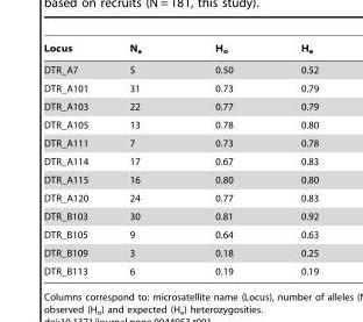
<table><thead><tr><td>Locus</td><td>N<sub>a</sub></td><td>H<sub>o</sub></td><td>H<sub>e</sub></td></tr></thead><tbody><tr><td>DTR_A7</td><td>5</td><td>0.50</td><td>0.52</td></tr><tr><td>DTR_A101</td><td>31</td><td>0.73</td><td>0.79</td></tr><tr><td>DTR_A103</td><td>22</td><td>0.77</td><td>0.79</td></tr><tr><td>DTR_A105</td><td>13</td><td>0.78</td><td>0.80</td></tr><tr><td>DTR_A111</td><td>7</td><td>0.73</td><td>0.78</td></tr><tr><td>DTR_A114</td><td>17</td><td>0.67</td><td>0.83</td></tr><tr><td>DTR_A115</td><td>16</td><td>0.80</td><td>0.80</td></tr><tr><td>DTR_A120</td><td>24</td><td>0.77</td><td>0.83</td></tr><tr><td>DTR_B103</td><td>30</td><td>0.81</td><td>0.92</td></tr><tr><td>DTR_B105</td><td>9</td><td>0.64</td><td>0.63</td></tr><tr><td>DTR_B109</td><td>3</td><td>0.18</td><td>0.25</td></tr><tr><td>DTR_B113</td><td>6</td><td>0.19</td><td>0.19</td></tr></tbody></table>